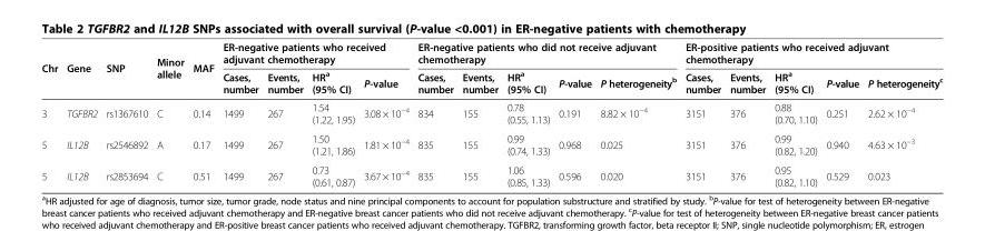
<table><thead><tr><td rowspan="2">Chr</td><td rowspan="2">Gene</td><td rowspan="2">SNP</td><td rowspan="2">Minor allele</td><td rowspan="2">MAF</td><td colspan="4">ER-negative patients who received adjuvant chemotherapy</td><td colspan="5">ER-negative patients who did not receive adjuvant chemotherapy</td><td colspan="5">ER-positive patients who received adjuvant chemotherapy</td></tr><tr><td>Cases, number</td><td>Events, number</td><td>HR<sup>a</sup> (95% CI)</td><td>P-value</td><td>Cases, number</td><td>Events, number</td><td>HR<sup>a</sup> (95% CI)</td><td>P-value</td><td>P heterogeneity<sup>b</sup></td><td>Cases, number</td><td>Events, number</td><td>HR<sup>a</sup> (95% CI)</td><td>P-value</td><td>P heterogeneity<sup>c</sup></td></tr></thead><tbody><tr><td>3</td><td>TGFBR2</td><td>rs1367610</td><td>C</td><td>0.14</td><td>1499</td><td>267</td><td>1.54 (1.22, 1.95)</td><td>3.08 × 10<sup>−4</sup></td><td>834</td><td>155</td><td>0.78 (0.55, 1.13)</td><td>0.191</td><td>8.82 × 10<sup>−4</sup></td><td>3151</td><td>376</td><td>0.88 (0.70, 1.10)</td><td>0.251</td><td>2.62 × 10<sup>−4</sup></td></tr><tr><td>5</td><td>IL12B</td><td>rs2546892</td><td>A</td><td>0.17</td><td>1499</td><td>267</td><td>1.50 (1.21, 1.86)</td><td>1.81 × 10<sup>−4</sup></td><td>835</td><td>155</td><td>0.99 (0.74, 1.33)</td><td>0.968</td><td>0.025</td><td>3151</td><td>376</td><td>0.99 (0.82, 1.20)</td><td>0.940</td><td>4.63 × 10<sup>−3</sup></td></tr><tr><td>5</td><td>IL12B</td><td>rs2853694</td><td>C</td><td>0.51</td><td>1499</td><td>267</td><td>0.73 (0.61, 0.87)</td><td>3.67 × 10<sup>−4</sup></td><td>835</td><td>155</td><td>1.06 (0.85, 1.33)</td><td>0.596</td><td>0.020</td><td>3151</td><td>376</td><td>0.95 (0.82, 1.10)</td><td>0.529</td><td>0.023</td></tr></tbody></table>